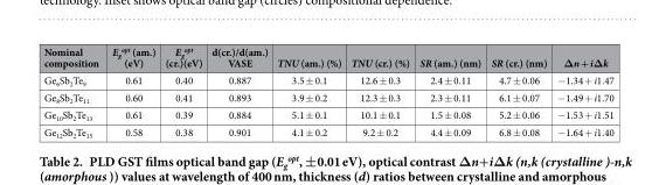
<table><thead><tr><td>Nominal composition</td><td>E<sub>g</sub> <sup>opt</sup> (am.) (eV)</td><td>E<sub>g</sub> <sup>opt</sup> (cr.)(eV)</td><td>d(cr.)/d(am.) VASE</td><td>TNU (am.) (%)</td><td>TNU (cr.) (%)</td><td>SR (am.) (nm)</td><td>SR (cr.) (nm)</td><td>Δn + iΔk</td></tr></thead><tbody><tr><td>Ge<sub>6</sub>Sb<sub>2</sub>Te<sub>9</sub></td><td>0.61</td><td>0.40</td><td>0.887</td><td>3.5 ± 0.1</td><td>12.6 ± 0.3</td><td>2.4 ± 0.11</td><td>4.7 ± 0.06</td><td>− 1.34 + i1.47</td></tr><tr><td>Ge<sub>8</sub>Sb<sub>2</sub>Te<sub>11</sub></td><td>0.60</td><td>0.41</td><td>0.893</td><td>3.9 ± 0.2</td><td>12.3 ± 0.3</td><td>2.3 ± 0.11</td><td>6.1 ± 0.07</td><td>− 1.49 + i1.70</td></tr><tr><td>Ge<sub>10</sub>Sb<sub>2</sub>Te<sub>13</sub></td><td>0.61</td><td>0.39</td><td>0.884</td><td>5.1 ± 0.1</td><td>10.1 ± 0.1</td><td>1.5 ± 0.08</td><td>5.2 ± 0.06</td><td>− 1.53 + i1.51</td></tr><tr><td>Ge<sub>12</sub>Sb<sub>2</sub>Te<sub>15</sub></td><td>0.58</td><td>0.38</td><td>0.901</td><td>4.1 ± 0.2</td><td>9.2 ± 0.2</td><td>4.4 ± 0.09</td><td>6.8 ± 0.08</td><td>− 1.64 + i1.40</td></tr></tbody></table>